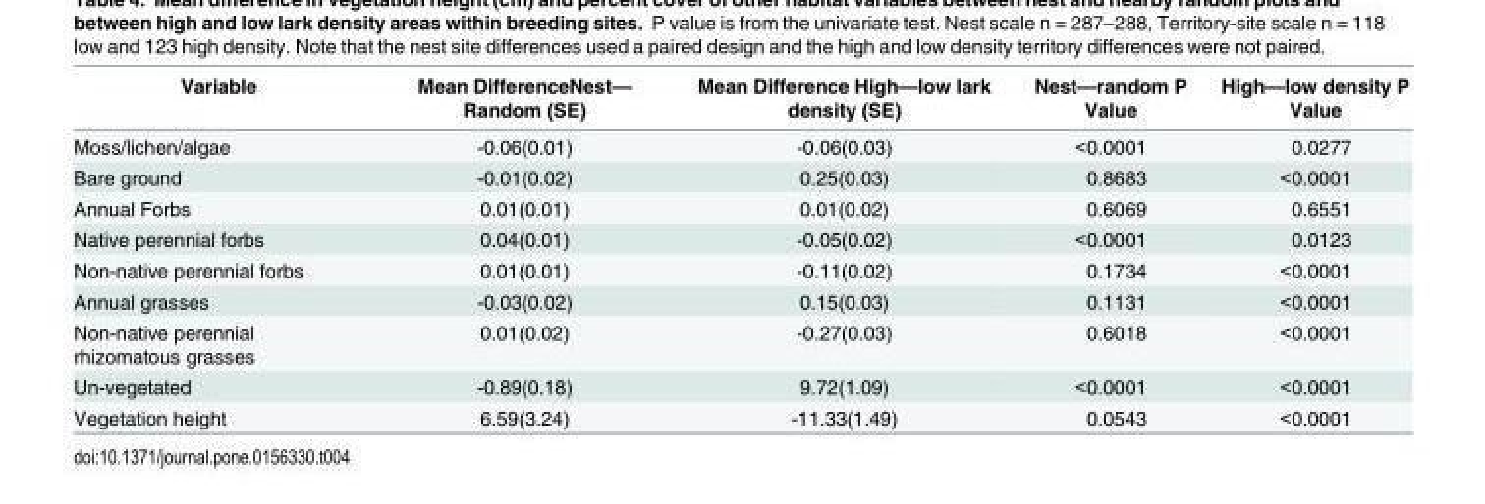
<table><thead><tr><td>Variable</td><td>Mean DifferenceNest— Random (SE)</td><td>Mean Difference High—low lark density (SE)</td><td>Nest—random P Value</td><td>High—low density P Value</td></tr></thead><tbody><tr><td>Moss/lichen/algae</td><td>-0.06(0.01)</td><td>-0.06(0.03)</td><td>&lt;0.0001</td><td>0.0277</td></tr><tr><td>Bare ground</td><td>-0.01(0.02)</td><td>0.25(0.03)</td><td>0.8683</td><td>&lt;0.0001</td></tr><tr><td>Annual Forbs</td><td>0.01(0.01)</td><td>0.01(0.02)</td><td>0.6069</td><td>0.6551</td></tr><tr><td>Native perennial forbs</td><td>0.04(0.01)</td><td>-0.05(0.02)</td><td>&lt;0.0001</td><td>0.0123</td></tr><tr><td>Non-native perennial forbs</td><td>0.01(0.01)</td><td>-0.11(0.02)</td><td>0.1734</td><td>&lt;0.0001</td></tr><tr><td>Annual grasses</td><td>-0.03(0.02)</td><td>0.15(0.03)</td><td>0.1131</td><td>&lt;0.0001</td></tr><tr><td>Non-native perennial rhizomatous grasses</td><td>0.01(0.02)</td><td>-0.27(0.03)</td><td>0.6018</td><td>&lt;0.0001</td></tr><tr><td>Un-vegetated</td><td>-0.89(0.18)</td><td>9.72(1.09)</td><td>&lt;0.0001</td><td>&lt;0.0001</td></tr><tr><td>Vegetation height</td><td>6.59(3.24)</td><td>-11.33(1.49)</td><td>0.0543</td><td>&lt;0.0001</td></tr></tbody></table>